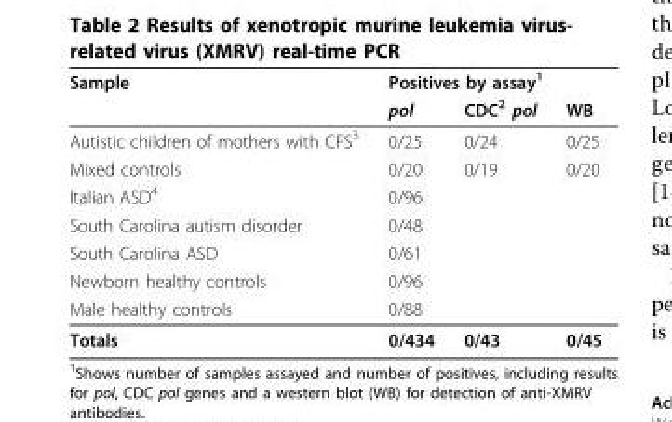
<table><thead><tr><td rowspan="2">Sample</td><td colspan="3">Positives by assay<sup>1</sup></td></tr><tr><td>pol</td><td>CDC<sup>2</sup> pol</td><td>WB</td></tr></thead><tbody><tr><td>Autistic children of mothers with CFS<sup>3</sup></td><td>0/25</td><td>0/24</td><td>0/25</td></tr><tr><td>Mixed controls</td><td>0/20</td><td>0/19</td><td>0/20</td></tr><tr><td>Italian ASD<sup>4</sup></td><td>0/96</td><td></td><td></td></tr><tr><td>South Carolina autism disorder</td><td>0/48</td><td></td><td></td></tr><tr><td>South Carolina ASD</td><td>0/61</td><td></td><td></td></tr><tr><td>Newborn healthy controls</td><td>0/96</td><td></td><td></td></tr><tr><td>Male healthy controls</td><td>0/88</td><td></td><td></td></tr><tr><td>Totals</td><td>0/434</td><td>0/43</td><td>0/45</td></tr></tbody></table>